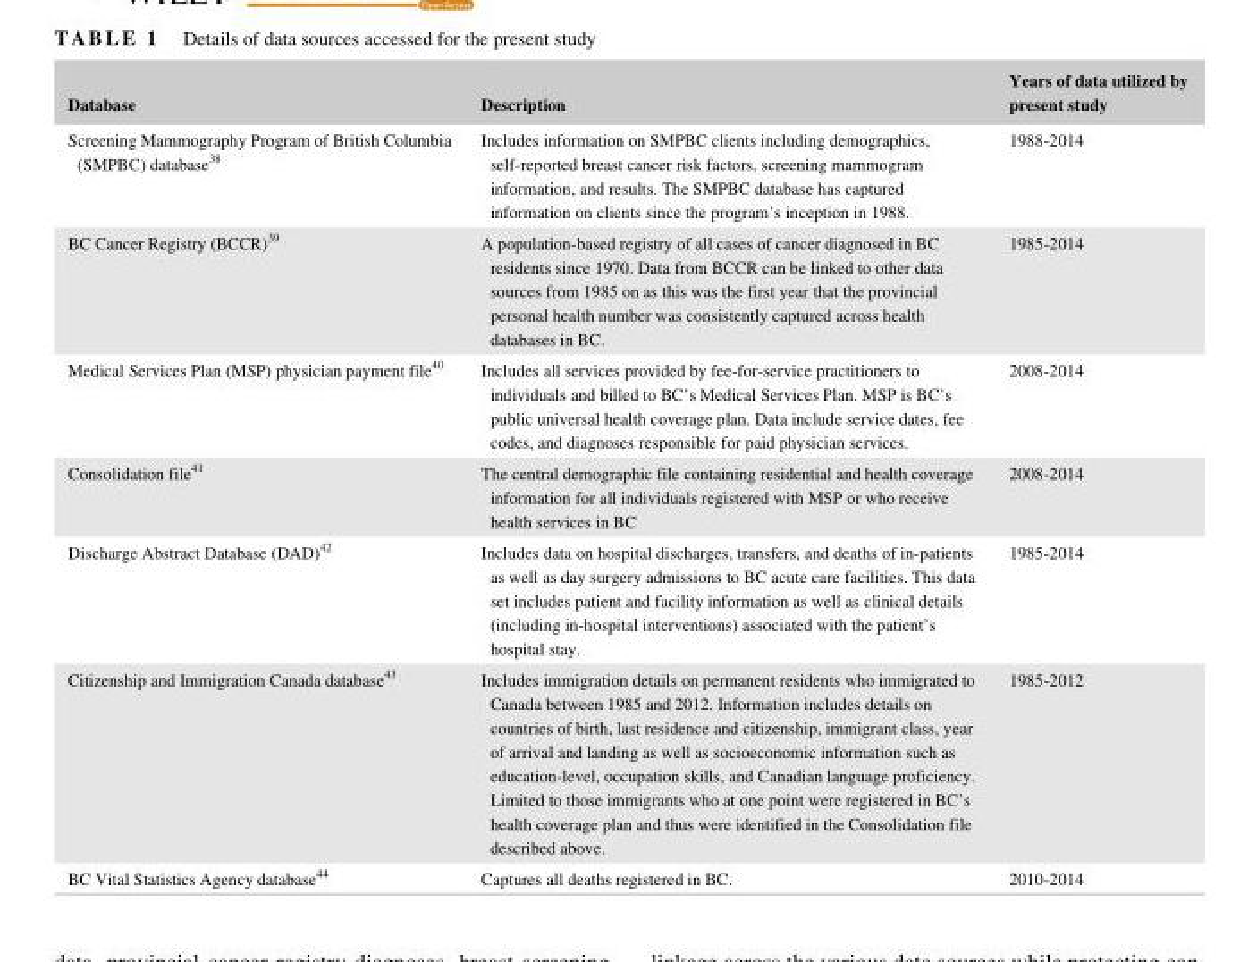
<table><thead><tr><td>Database</td><td>Description</td><td>Years of data utilized by present study</td></tr></thead><tbody><tr><td>Screening Mammography Program of British Columbia (SMPBC) database<sup>38</sup></td><td>Includes information on SMPBC clients including demographics, self- reported breast cancer risk factors, screening mammogram information, and results. The SMPBC database has captured information on clients since the program’s inception in 1988.</td><td>1988- 2014</td></tr><tr><td>BC Cancer Registry (BCCR)<sup>39</sup></td><td>A population- based registry of all cases of cancer diagnosed in BC residents since 1970. Data from BCCR can be linked to other data sources from 1985 on as this was the first year that the provincial personal health number was consistently captured across health databases in BC.</td><td>1985- 2014</td></tr><tr><td>Medical Services Plan (MSP) physician payment file<sup>40</sup></td><td>Includes all services provided by fee- for- service practitioners to individuals and billed to BC’s Medical Services Plan. MSP is BC’s public universal health coverage plan. Data include service dates, fee codes, and diagnoses responsible for paid physician services.</td><td>2008- 2014</td></tr><tr><td>Consolidation file<sup>41</sup></td><td>The central demographic file containing residential and health coverage information for all individuals registered with MSP or who receive health services in BC</td><td>2008- 2014</td></tr><tr><td>Discharge Abstract Database (DAD)<sup>42</sup></td><td>Includes data on hospital discharges, transfers, and deaths of in- patients as well as day surgery admissions to BC acute care facilities. This data set includes patient and facility information as well as clinical details (including in- hospital interventions) associated with the patient’s hospital stay.</td><td>1985- 2014</td></tr><tr><td>Citizenship and Immigration Canada database<sup>43</sup></td><td>Includes immigration details on permanent residents who immigrated to Canada between 1985 and 2012. Information includes details on countries of birth, last residence and citizenship, immigrant class, year of arrival and landing as well as socioeconomic information such as education- level, occupation skills, and Canadian language proficiency. Limited to those immigrants who at one point were registered in BC’s health coverage plan and thus were identified in the Consolidation file described above.</td><td>1985- 2012</td></tr><tr><td>BC Vital Statistics Agency database<sup>44</sup></td><td>Captures all deaths registered in BC.</td><td>2010- 2014</td></tr></tbody></table>